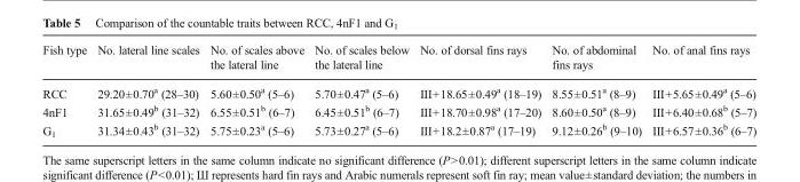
<table><thead><tr><td>Fish type</td><td>No. lateral line scales</td><td>No. of scales above the lateral line</td><td>No. of scales below the lateral line</td><td>No. of dorsal fins rays</td><td>No. of abdominal fins rays</td><td>No. of anal fins rays</td></tr></thead><tbody><tr><td>RCC</td><td>29.20±0.70<sup>a</sup> (28–30)</td><td>5.60±0.50<sup>a</sup> (5–6)</td><td>5.70±0.47<sup>a</sup> (5–6)</td><td>III+18.65±0.49<sup>a</sup> (18–19)</td><td>8.55±0.51<sup>a</sup> (8–9)</td><td>III+5.65±0.49<sup>a</sup> (5–6)</td></tr><tr><td>4nF1</td><td>31.65±0.49<sup>b</sup> (31–32)</td><td>6.55±0.51<sup>b</sup> (6–7)</td><td>6.45±0.51<sup>b</sup> (6–7)</td><td>III+18.70±0.98<sup>a</sup> (17–20)</td><td>8.60±0.50<sup>a</sup> (8–9)</td><td>III+6.40±0.68<sup>b</sup> (5–7)</td></tr><tr><td>G<sub>1</sub></td><td>31.34±0.43<sup>b</sup> (31–32)</td><td>5.75±0.23<sup>a</sup> (5–6)</td><td>5.73±0.27<sup>a</sup> (5–6)</td><td>III+18.2±0.87<sup>a</sup> (17–19)</td><td>9.12±0.26<sup>b</sup> (9–10)</td><td>III+6.57±0.36<sup>b</sup> (6–7)</td></tr></tbody></table>